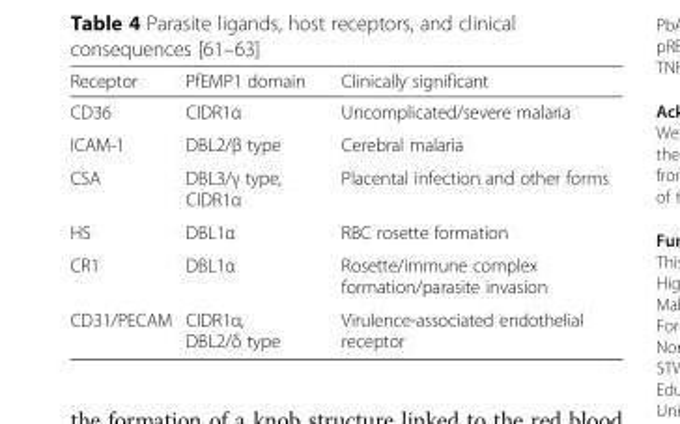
<table><thead><tr><td>Receptor</td><td>PfEMP1 domain</td><td>Clinically significant</td></tr></thead><tbody><tr><td>CD36</td><td>CIDR1α</td><td>Uncomplicated/severe malaria</td></tr><tr><td>ICAM-1</td><td>DBL2/β type</td><td>Cerebral malaria</td></tr><tr><td>CSA</td><td>DBL3/γ type, CIDR1α</td><td>Placental infection and other forms</td></tr><tr><td>HS</td><td>DBL1α</td><td>RBC rosette formation</td></tr><tr><td>CR1</td><td>DBL1α</td><td>Rosette/immune complex formation/parasite invasion</td></tr><tr><td>CD31/PECAM</td><td>CIDR1α, DBL2/δ type</td><td>Virulence-associated endothelial receptor</td></tr></tbody></table>